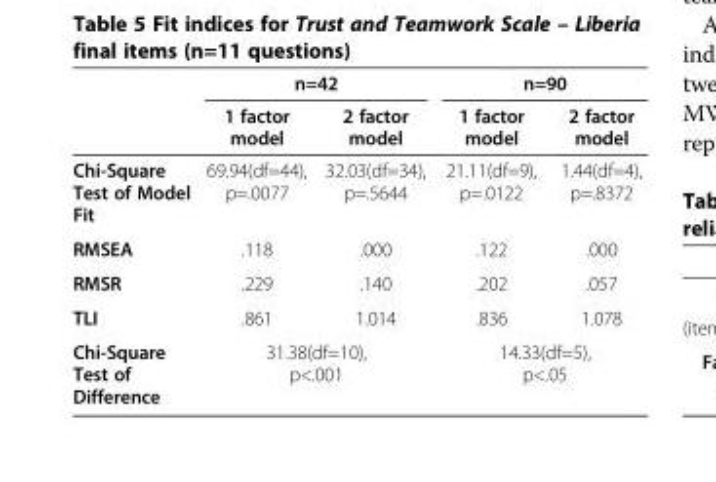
<table><thead><tr><td rowspan="2"></td><td colspan="2">n=42</td><td colspan="2">n=90</td></tr><tr><td>1 factor model</td><td>2 factor model</td><td>1 factor model</td><td>2 factor model</td></tr></thead><tbody><tr><td>Chi-Square Test of Model Fit</td><td>69.94(df=44), p=.0077</td><td>32.03(df=34), p=.5644</td><td>21.11(df=9), p=.0122</td><td>1.44(df=4), p=.8372</td></tr><tr><td>RMSEA</td><td>.118</td><td>.000</td><td>.122</td><td>.000</td></tr><tr><td>RMSR</td><td>.229</td><td>.140</td><td>.202</td><td>.057</td></tr><tr><td>TLI</td><td>.861</td><td>1.014</td><td>.836</td><td>1.078</td></tr><tr><td>Chi-Square Test of Difference</td><td colspan="2">31.38(df=10), p&lt;.001</td><td colspan="2">14.33(df=5), p&lt;.05</td></tr></tbody></table>